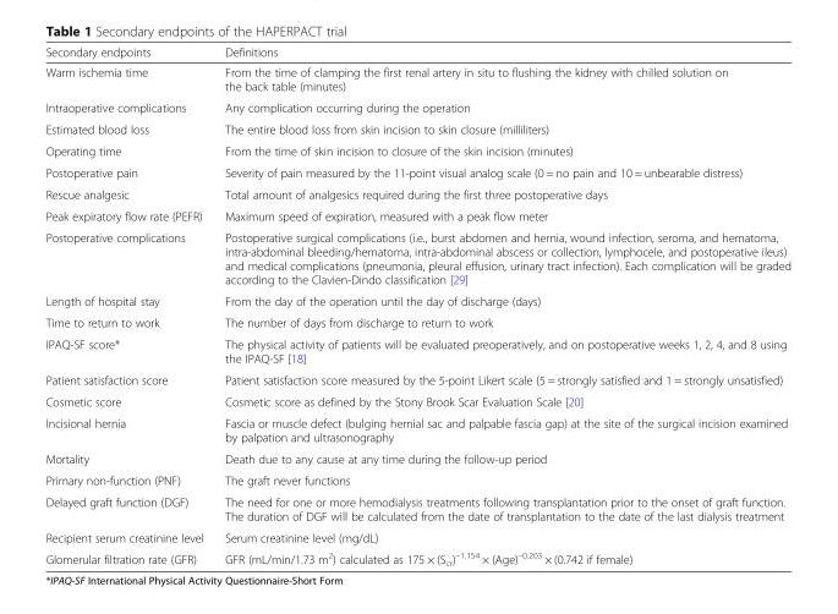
<table><thead><tr><td>Secondary endpoints</td><td>Definitions</td></tr></thead><tbody><tr><td>Warm ischemia time</td><td>From the time of clamping the first renal artery in situ to flushing the kidney with chilled solution on the back table (minutes)</td></tr><tr><td>Intraoperative complications</td><td>Any complication occurring during the operation</td></tr><tr><td>Estimated blood loss</td><td>The entire blood loss from skin incision to skin closure (milliliters)</td></tr><tr><td>Operating time</td><td>From the time of skin incision to closure of the skin incision (minutes)</td></tr><tr><td>Postoperative pain</td><td>Severity of pain measured by the 11-point visual analog scale (0 = no pain and 10 = unbearable distress)</td></tr><tr><td>Rescue analgesic</td><td>Total amount of analgesics required during the first three postoperative days</td></tr><tr><td>Peak expiratory flow rate (PEFR)</td><td>Maximum speed of expiration, measured with a peak flow meter</td></tr><tr><td>Postoperative complications</td><td>Postoperative surgical complications (i.e., burst abdomen and hernia, wound infection, seroma, and hematoma, intra-abdominal bleeding/hematoma, intra-abdominal abscess or collection, lymphocele, and postoperative ileus) and medical complications (pneumonia, pleural effusion, urinary tract infection). Each complication will be graded according to the Clavien-Dindo classification [29]</td></tr><tr><td>Length of hospital stay</td><td>From the day of the operation until the day of discharge (days)</td></tr><tr><td>Time to return to work</td><td>The number of days from discharge to return to work</td></tr><tr><td>IPAQ-SF score*</td><td>The physical activity of patients will be evaluated preoperatively, and on postoperative weeks 1, 2, 4, and 8 using the IPAQ-SF [18]</td></tr><tr><td>Patient satisfaction score</td><td>Patient satisfaction score measured by the 5-point Likert scale (5 = strongly satisfied and 1 = strongly unsatisfied)</td></tr><tr><td>Cosmetic score</td><td>Cosmetic score as defined by the Stony Brook Scar Evaluation Scale [20]</td></tr><tr><td>Incisional hernia</td><td>Fascia or muscle defect (bulging hernial sac and palpable fascia gap) at the site of the surgical incision examined by palpation and ultrasonography</td></tr><tr><td>Mortality</td><td>Death due to any cause at any time during the follow-up period</td></tr><tr><td>Primary non-function (PNF)</td><td>The graft never functions</td></tr><tr><td>Delayed graft function (DGF)</td><td>The need for one or more hemodialysis treatments following transplantation prior to the onset of graft function. The duration of DGF will be calculated from the date of transplantation to the date of the last dialysis treatment</td></tr><tr><td>Recipient serum creatinine level</td><td>Serum creatinine level (mg/dL)</td></tr><tr><td>Glomerular filtration rate (GFR)</td><td>GFR (mL/min/1.73 m<sup>2</sup>) calculated as 175 × (S<sub>cr</sub>)<sup>–1.154</sup> × (Age)<sup>–0.203</sup> × (0.742 if female)</td></tr></tbody></table>